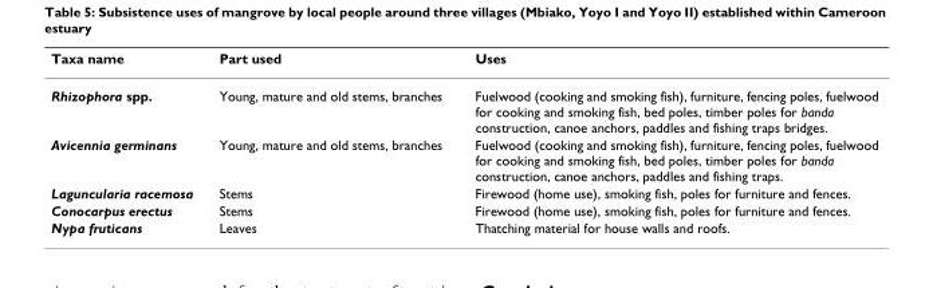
<table><thead><tr><td>Taxa name</td><td>Part used</td><td>Uses</td></tr></thead><tbody><tr><td>Rhizophora spp.</td><td>Young, mature and old stems, branches</td><td>Fuelwood (cooking and smoking fish), furniture, fencing poles, fuelwood for cooking and smoking fish, bed poles, timber poles for banda construction, canoe anchors, paddles and fishing traps bridges.</td></tr><tr><td>Avicennia germinans</td><td>Young, mature and old stems, branches</td><td>Fuelwood (cooking and smoking fish), furniture, fencing poles, fuelwood for cooking and smoking fish, bed poles, timber poles for banda construction, canoe anchors, paddles and fishing traps.</td></tr><tr><td>Laguncularia racemosa</td><td>Stems</td><td>Firewood (home use), smoking fish, poles for furniture and fences.</td></tr><tr><td>Conocarpus erectus</td><td>Stems</td><td>Firewood (home use), smoking fish, poles for furniture and fences.</td></tr><tr><td>Nypa fruticans</td><td>Leaves</td><td>Thatching material for house walls and roofs.</td></tr></tbody></table>